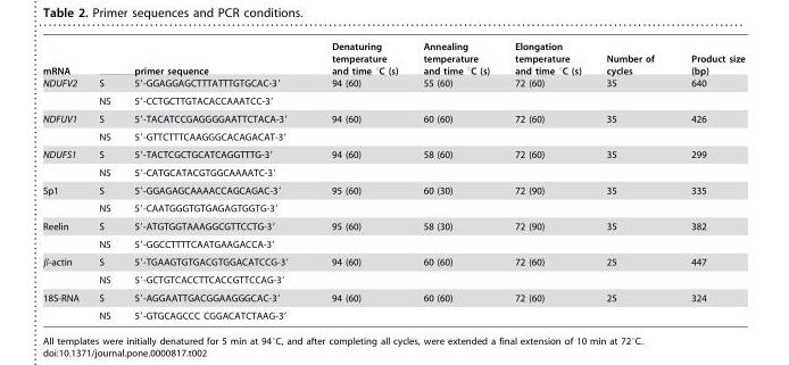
<table><thead><tr><td>mRNA</td><td></td><td>primer sequence</td><td>Denaturing temperature and time °C (s)</td><td>Annealing temperature and time °C (s)</td><td>Elongation temperature and time °C (s)</td><td>Number of cycles</td><td>Product size (bp)</td></tr></thead><tbody><tr><td rowspan="2">NDUFV2</td><td>S</td><td>5′-GGAGGAGCTTTATTTGTGCAC-3′</td><td>94 (60)</td><td>55 (60)</td><td>72 (60)</td><td>35</td><td>640</td></tr><tr><td>NS</td><td>5′-CCTGCTTGTACACCAAATCC-3′</td><td></td><td></td><td></td><td></td><td></td></tr><tr><td rowspan="2">NDFUV1</td><td>S</td><td>5′-TACATCCGAGGGGAATTCTACA-3′</td><td>94 (60)</td><td>60 (60)</td><td>72 (60)</td><td>35</td><td>426</td></tr><tr><td>NS</td><td>5′-GTTCTTTCAAGGGCACAGACAT-3′</td><td></td><td></td><td></td><td></td><td></td></tr><tr><td rowspan="2">NDUFS1</td><td>S</td><td>5′-TACTCGCTGCATCAGGTTTG-3′</td><td>94 (60)</td><td>58 (60)</td><td>72 (60)</td><td>35</td><td>299</td></tr><tr><td>NS</td><td>5′-CATGCATACGTGGCAAAATC-3′</td><td></td><td></td><td></td><td></td><td></td></tr><tr><td rowspan="2">Sp1</td><td>S</td><td>5′-GGAGAGCAAAACCAGCAGAC-3′</td><td>95 (60)</td><td>60 (30)</td><td>72 (90)</td><td>35</td><td>335</td></tr><tr><td>NS</td><td>5′-CAATGGGTGTGAGAGTGGTG-3′</td><td></td><td></td><td></td><td></td><td></td></tr><tr><td rowspan="2">Reelin</td><td>S</td><td>5′-ATGTGGTAAAGGCGTTCCTG-3′</td><td>95 (60)</td><td>58 (30)</td><td>72 (90)</td><td>35</td><td>382</td></tr><tr><td>NS</td><td>5′-GGCCTTTTCAATGAAGACCA-3′</td><td></td><td></td><td></td><td></td><td></td></tr><tr><td rowspan="2">β-actin</td><td>S</td><td>5′-TGAAGTGTGACGTGGACATCCG-3′</td><td>94 (60)</td><td>60 (60)</td><td>72 (60)</td><td>25</td><td>447</td></tr><tr><td>NS</td><td>5′-GCTGTCACCTTCACCGTTCCAG-3′</td><td></td><td></td><td></td><td></td><td></td></tr><tr><td rowspan="2">18S-RNA</td><td>S</td><td>5′-AGGAATTGACGGAAGGGCAC-3′</td><td>94 (60)</td><td>60 (60)</td><td>72 (60)</td><td>25</td><td>324</td></tr><tr><td>NS</td><td>5′-GTGCAGCCC CGGACATCTAAG-3′</td><td></td><td></td><td></td><td></td><td></td></tr></tbody></table>